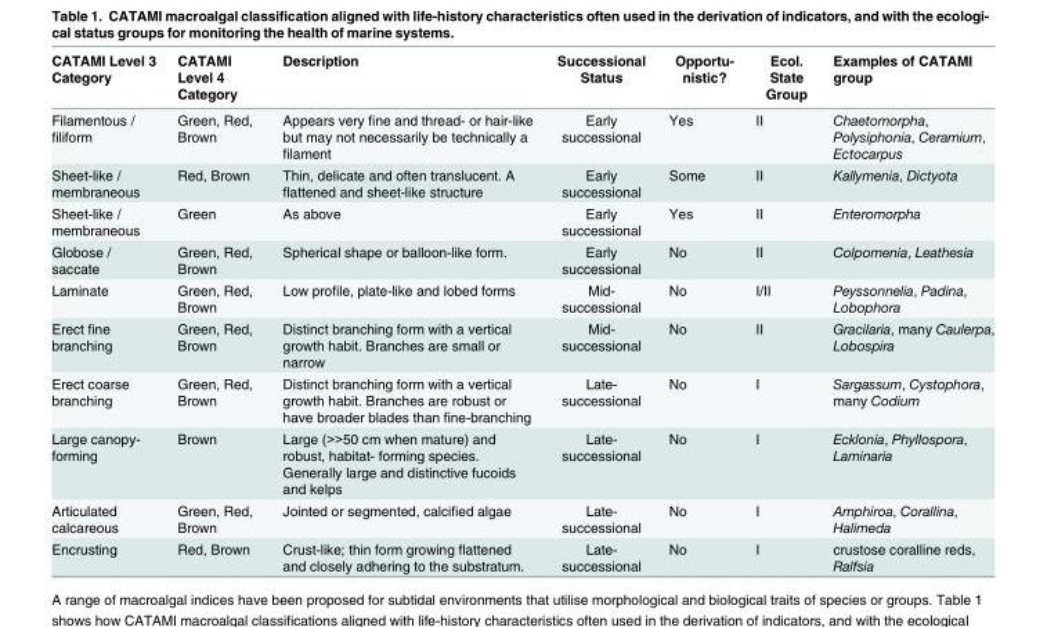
<table><thead><tr><td>CATAMI Level 3 Category</td><td>CATAMI Level 4 Category</td><td>Description</td><td>Successional Status</td><td>Opportu- nistic?</td><td>Ecol. State Group</td><td>Examples of CATAMI group</td></tr></thead><tbody><tr><td>Filamentous / filiform</td><td>Green, Red, Brown</td><td>Appears very fine and thread- or hair-like but may not necessarily be technically a filament</td><td>Early successional</td><td>Yes</td><td>II</td><td>Chaetomorpha, Polysiphonia, Ceramium, Ectocarpus</td></tr><tr><td>Sheet-like / membraneous</td><td>Red, Brown</td><td>Thin, delicate and often translucent. A flattened and sheet-like structure</td><td>Early successional</td><td>Some</td><td>II</td><td>Kallymenia, Dictyota</td></tr><tr><td>Sheet-like / membraneous</td><td>Green</td><td>As above</td><td>Early successional</td><td>Yes</td><td>II</td><td>Enteromorpha</td></tr><tr><td>Globose / saccate</td><td>Green, Red, Brown</td><td>Spherical shape or balloon-like form.</td><td>Early successional</td><td>No</td><td>II</td><td>Colpomenia, Leathesia</td></tr><tr><td>Laminate</td><td>Green, Red, Brown</td><td>Low profile, plate-like and lobed forms</td><td>Mid- successional</td><td>No</td><td>I/II</td><td>Peyssonnelia, Padina, Lobophora</td></tr><tr><td>Erect fine branching</td><td>Green, Red, Brown</td><td>Distinct branching form with a vertical growth habit. Branches are small or narrow</td><td>Mid- successional</td><td>No</td><td>II</td><td>Gracilaria, many Caulerpa, Lobospira</td></tr><tr><td>Erect coarse branching</td><td>Green, Red, Brown</td><td>Distinct branching form with a vertical growth habit. Branches are robust or have broader blades than fine-branching</td><td>Late- successional</td><td>No</td><td>I</td><td>Sargassum, Cystophora, many Codium</td></tr><tr><td>Large canopy- forming</td><td>Brown</td><td>Large (&gt;&gt;50 cm when mature) and robust, habitat- forming species. Generally large and distinctive fucoids and kelps</td><td>Late- successional</td><td>No</td><td>I</td><td>Ecklonia, Phyllospora, Laminaria</td></tr><tr><td>Articulated calcareous</td><td>Green, Red, Brown</td><td>Jointed or segmented, calcified algae</td><td>Late- successional</td><td>No</td><td>I</td><td>Amphiroa, Corallina, Halimeda</td></tr><tr><td>Encrusting</td><td>Red, Brown</td><td>Crust-like; thin form growing flattened and closely adhering to the substratum.</td><td>Late- successional</td><td>No</td><td>I</td><td>crustose coralline reds, Ralfsia</td></tr></tbody></table>